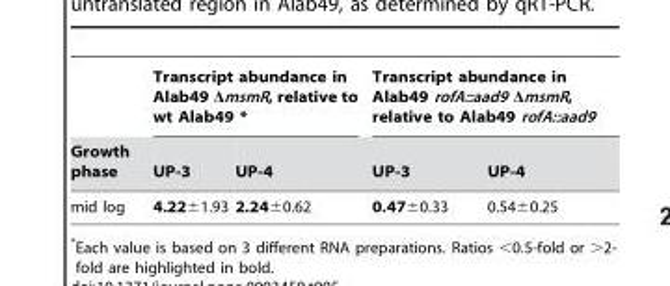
<table><thead><tr><td rowspan="2">Growth phase</td><td colspan="2">Transcript abundance in Alab49 ΔmsmR, relative to wt Alab49 *</td><td colspan="2">Transcript abundance in Alab49 rofA::aad9 ΔmsmR, relative to Alab49 rofA::aad9</td></tr><tr><td>UP-3</td><td>UP-4</td><td>UP-3</td><td>UP-4</td></tr></thead><tbody><tr><td>mid log</td><td>4.22±1.93</td><td>2.24±0.62</td><td>0.47±0.33</td><td>0.54±0.25</td></tr></tbody></table>